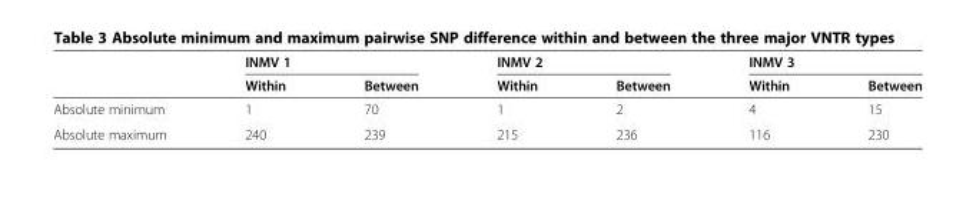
<table><thead><tr><td rowspan="2"></td><td colspan="2">INMV 1</td><td colspan="2">INMV 2</td><td colspan="2">INMV 3</td></tr><tr><td>Within</td><td>Between</td><td>Within</td><td>Between</td><td>Within</td><td>Between</td></tr></thead><tbody><tr><td>Absolute minimum</td><td>1</td><td>70</td><td>1</td><td>2</td><td>4</td><td>15</td></tr><tr><td>Absolute maximum</td><td>240</td><td>239</td><td>215</td><td>236</td><td>116</td><td>230</td></tr></tbody></table>